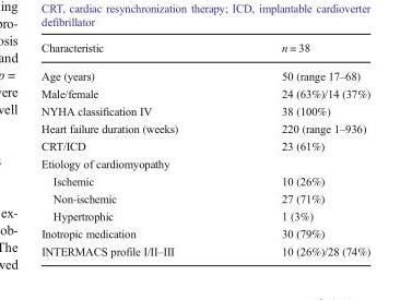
<table><thead><tr><td>Characteristic</td><td>n = 38</td></tr></thead><tbody><tr><td>Age (years)</td><td>50 (range 17–68)</td></tr><tr><td>Male/female</td><td>24 (63%)/14 (37%)</td></tr><tr><td>NYHA classification IV</td><td>38 (100%)</td></tr><tr><td>Heart failure duration (weeks)</td><td>220 (range 1–936)</td></tr><tr><td>CRT/ICD</td><td>23 (61%)</td></tr><tr><td colspan="2">Etiology of cardiomyopathy</td></tr><tr><td>Ischemic</td><td>10 (26%)</td></tr><tr><td>Non-ischemic</td><td>27 (71%)</td></tr><tr><td>Hypertrophic</td><td>1 (3%)</td></tr><tr><td>Inotropic medication</td><td>30 (79%)</td></tr><tr><td>INTERMACS profile I/II–III</td><td>10 (26%)/28 (74%)</td></tr></tbody></table>